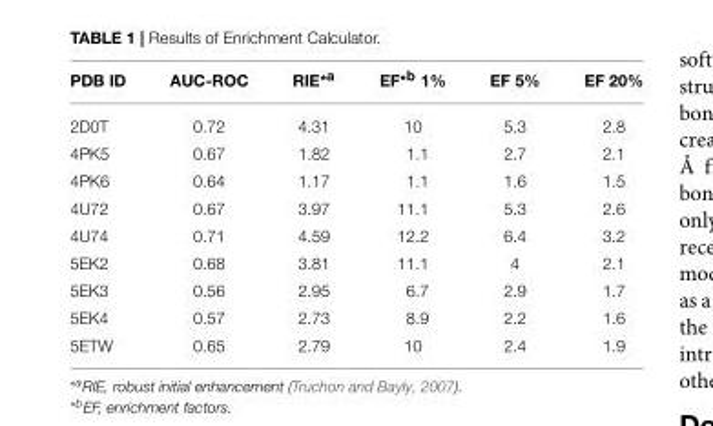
<table><thead><tr><td>PDB ID</td><td>AUC-ROC</td><td>RIE<sup>*a</sup></td><td>EF<sup>*b</sup> 1%</td><td>EF 5%</td><td>EF 20%</td></tr></thead><tbody><tr><td>2D0T</td><td>0.72</td><td>4.31</td><td>10</td><td>5.3</td><td>2.8</td></tr><tr><td>4PK5</td><td>0.67</td><td>1.82</td><td>1.1</td><td>2.7</td><td>2.1</td></tr><tr><td>4PK6</td><td>0.64</td><td>1.17</td><td>1.1</td><td>1.6</td><td>1.5</td></tr><tr><td>4U72</td><td>0.67</td><td>3.97</td><td>11.1</td><td>5.3</td><td>2.6</td></tr><tr><td>4U74</td><td>0.71</td><td>4.59</td><td>12.2</td><td>6.4</td><td>3.2</td></tr><tr><td>5EK2</td><td>0.68</td><td>3.81</td><td>11.1</td><td>4</td><td>2.1</td></tr><tr><td>5EK3</td><td>0.56</td><td>2.95</td><td>6.7</td><td>2.9</td><td>1.7</td></tr><tr><td>5EK4</td><td>0.57</td><td>2.73</td><td>8.9</td><td>2.2</td><td>1.6</td></tr><tr><td>5ETW</td><td>0.65</td><td>2.79</td><td>10</td><td>2.4</td><td>1.9</td></tr></tbody></table>